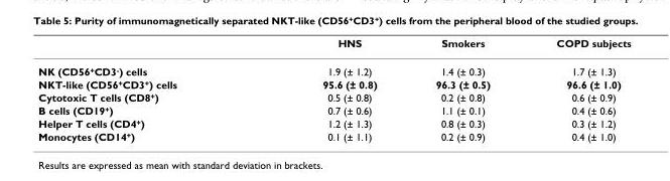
<table><thead><tr><td></td><td>HNS</td><td>Smokers</td><td>COPD subjects</td></tr></thead><tbody><tr><td>NK (CD56<sup>+</sup>CD3<sup>-</sup>) cells</td><td>1.9 (± 1.2)</td><td>1.4 (± 0.3)</td><td>1.7 (± 1.3)</td></tr><tr><td>NKT-like (CD56<sup>+</sup>CD3<sup>+</sup>) cells</td><td>95.6 (± 0.8)</td><td>96.3 (± 0.5)</td><td>96.6 (± 1.0)</td></tr><tr><td>Cytotoxic T cells (CD8<sup>+</sup>)</td><td>0.5 (± 0.8)</td><td>0.2 (± 0.8)</td><td>0.6 (± 0.9)</td></tr><tr><td>B cells (CD19<sup>+</sup>)</td><td>0.7 (± 0.6)</td><td>1.1 (± 0.1)</td><td>0.4 (± 0.6)</td></tr><tr><td>Helper T cells (CD4<sup>+</sup>)</td><td>1.2 (± 1.3)</td><td>0.8 (± 0.3)</td><td>0.3 (± 1.2)</td></tr><tr><td>Monocytes (CD14<sup>+</sup>)</td><td>0.1 (± 1.1)</td><td>0.2 (± 0.9)</td><td>0.4 (± 1.0)</td></tr></tbody></table>